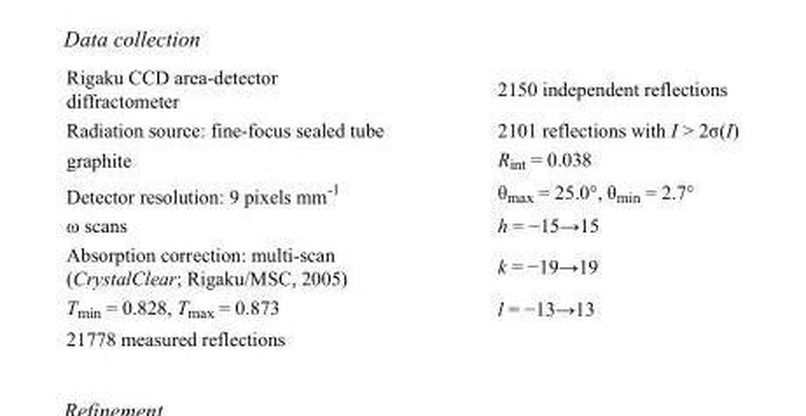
<table><tbody><tr><td>Rigaku CCD area-detector diffractometer</td><td>2150 independent reflections</td></tr><tr><td>Radiation source: fine-focus sealed tube</td><td>2101 reflections with I &gt; 2σ(I)</td></tr><tr><td>graphite</td><td>R<sub>int</sub> = 0.038</td></tr><tr><td>Detector resolution: 9 pixels mm<sup>-1</sup></td><td>θ<sub>max</sub> = 25.0°, θ<sub>min</sub> = 2.7°</td></tr><tr><td>ω scans</td><td>h = −15→15</td></tr><tr><td>Absorption correction: multi-scan (CrystalClear; Rigaku/MSC, 2005)</td><td>k = −19→19</td></tr><tr><td>T<sub>min</sub> = 0.828, T<sub>max</sub> = 0.873</td><td>l = −13→13</td></tr><tr><td>21778 measured reflections</td><td></td></tr></tbody></table>